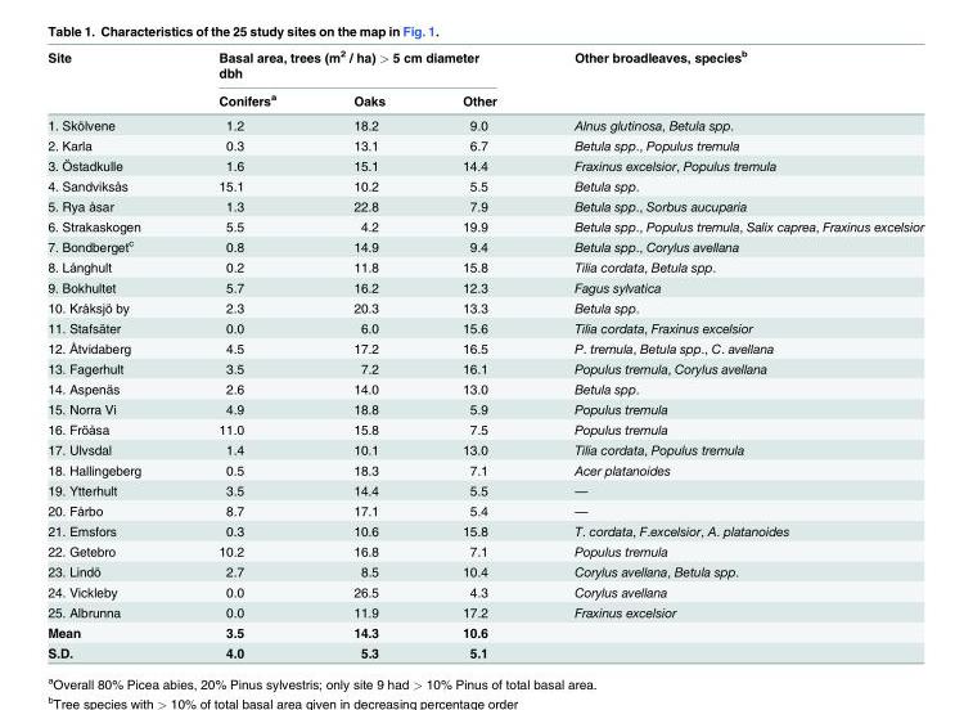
<table><thead><tr><td rowspan="2">Site</td><td colspan="3">Basal area, trees (m<sup>2</sup> / ha) &gt; 5 cm diameter dbh</td><td rowspan="2">Other broadleaves, species<sup>b</sup></td></tr><tr><td>Conifers<sup>a</sup></td><td>Oaks</td><td>Other</td></tr></thead><tbody><tr><td>1. Skölvene</td><td>1.2</td><td>18.2</td><td>9.0</td><td>Alnus glutinosa, Betula spp.</td></tr><tr><td>2. Karla</td><td>0.3</td><td>13.1</td><td>6.7</td><td>Betula spp., Populus tremula</td></tr><tr><td>3. Östadkulle</td><td>1.6</td><td>15.1</td><td>14.4</td><td>Fraxinus excelsior, Populus tremula</td></tr><tr><td>4. Sandviksås</td><td>15.1</td><td>10.2</td><td>5.5</td><td>Betula spp.</td></tr><tr><td>5. Rya åsar</td><td>1.3</td><td>22.8</td><td>7.9</td><td>Betula spp., Sorbus aucuparia</td></tr><tr><td>6. Strakaskogen</td><td>5.5</td><td>4.2</td><td>19.9</td><td>Betula spp., Populus tremula, Salix caprea, Fraxinus excelsior</td></tr><tr><td>7. Bondberget<sup>c</sup></td><td>0.8</td><td>14.9</td><td>9.4</td><td>Betula spp., Corylus avellana</td></tr><tr><td>8. Långhult</td><td>0.2</td><td>11.8</td><td>15.8</td><td>Tilia cordata, Betula spp.</td></tr><tr><td>9. Bokhultet</td><td>5.7</td><td>16.2</td><td>12.3</td><td>Fagus sylvatica</td></tr><tr><td>10. Kråksjö by</td><td>2.3</td><td>20.3</td><td>13.3</td><td>Betula spp.</td></tr><tr><td>11. Stafsäter</td><td>0.0</td><td>6.0</td><td>15.6</td><td>Tilia cordata, Fraxinus excelsior</td></tr><tr><td>12. Åtvidaberg</td><td>4.5</td><td>17.2</td><td>16.5</td><td>P. tremula, Betula spp., C. avellana</td></tr><tr><td>13. Fagerhult</td><td>3.5</td><td>7.2</td><td>16.1</td><td>Populus tremula, Corylus avellana</td></tr><tr><td>14. Aspenäs</td><td>2.6</td><td>14.0</td><td>13.0</td><td>Betula spp.</td></tr><tr><td>15. Norra Vi</td><td>4.9</td><td>18.8</td><td>5.9</td><td>Populus tremula</td></tr><tr><td>16. Fröåsa</td><td>11.0</td><td>15.8</td><td>7.5</td><td>Populus tremula</td></tr><tr><td>17. Ulvsdal</td><td>1.4</td><td>10.1</td><td>13.0</td><td>Tilia cordata, Populus tremula</td></tr><tr><td>18. Hallingeberg</td><td>0.5</td><td>18.3</td><td>7.1</td><td>Acer platanoides</td></tr><tr><td>19. Ytterhult</td><td>3.5</td><td>14.4</td><td>5.5</td><td>—</td></tr><tr><td>20. Fårbo</td><td>8.7</td><td>17.1</td><td>5.4</td><td>—</td></tr><tr><td>21. Emsfors</td><td>0.3</td><td>10.6</td><td>15.8</td><td>T. cordata, F.excelsior, A. platanoides</td></tr><tr><td>22. Getebro</td><td>10.2</td><td>16.8</td><td>7.1</td><td>Populus tremula</td></tr><tr><td>23. Lindö</td><td>2.7</td><td>8.5</td><td>10.4</td><td>Corylus avellana, Betula spp.</td></tr><tr><td>24. Vickleby</td><td>0.0</td><td>26.5</td><td>4.3</td><td>Corylus avellana</td></tr><tr><td>25. Albrunna</td><td>0.0</td><td>11.9</td><td>17.2</td><td>Fraxinus excelsior</td></tr><tr><td>Mean</td><td>3.5</td><td>14.3</td><td>10.6</td><td></td></tr><tr><td>S.D.</td><td>4.0</td><td>5.3</td><td>5.1</td><td></td></tr></tbody></table>